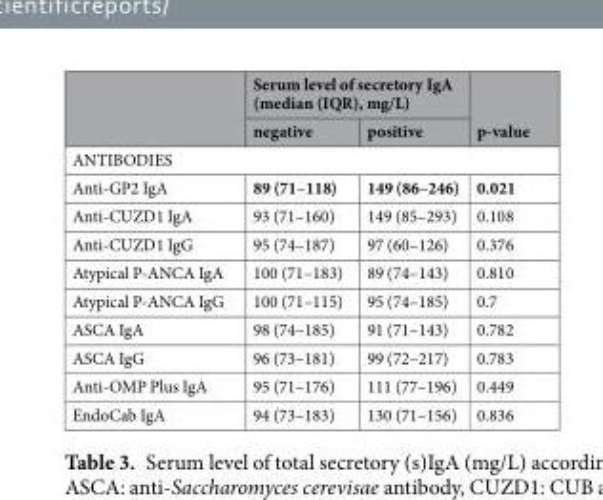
<table><thead><tr><td rowspan="2"></td><td colspan="2">Serum level of secretory IgA (median (IQR), mg/L)</td><td rowspan="2">p-value</td></tr><tr><td>negative</td><td>positive</td></tr></thead><tbody><tr><td colspan="4">ANTIBODIES</td></tr><tr><td>Anti-GP2 IgA</td><td>89 (71–118)</td><td>149 (86–246)</td><td>0.021</td></tr><tr><td>Anti-CUZD1 IgA</td><td>93 (71–160)</td><td>149 (85–293)</td><td>0.108</td></tr><tr><td>Anti-CUZD1 IgG</td><td>95 (74–187)</td><td>97 (60–126)</td><td>0.376</td></tr><tr><td>Atypical P-ANCA IgA</td><td>100 (71–183)</td><td>89 (74–143)</td><td>0.810</td></tr><tr><td>Atypical P-ANCA IgG</td><td>100 (71–115)</td><td>95 (74–185)</td><td>0.7</td></tr><tr><td>ASCA IgA</td><td>98 (74–185)</td><td>91 (71–143)</td><td>0.782</td></tr><tr><td>ASCA IgG</td><td>96 (73–181)</td><td>99 (72–217)</td><td>0.783</td></tr><tr><td>Anti-OMP Plus IgA</td><td>95 (71–176)</td><td>111 (77–196)</td><td>0.449</td></tr><tr><td>EndoCab IgA</td><td>94 (73–183)</td><td>130 (71–156)</td><td>0.836</td></tr></tbody></table>